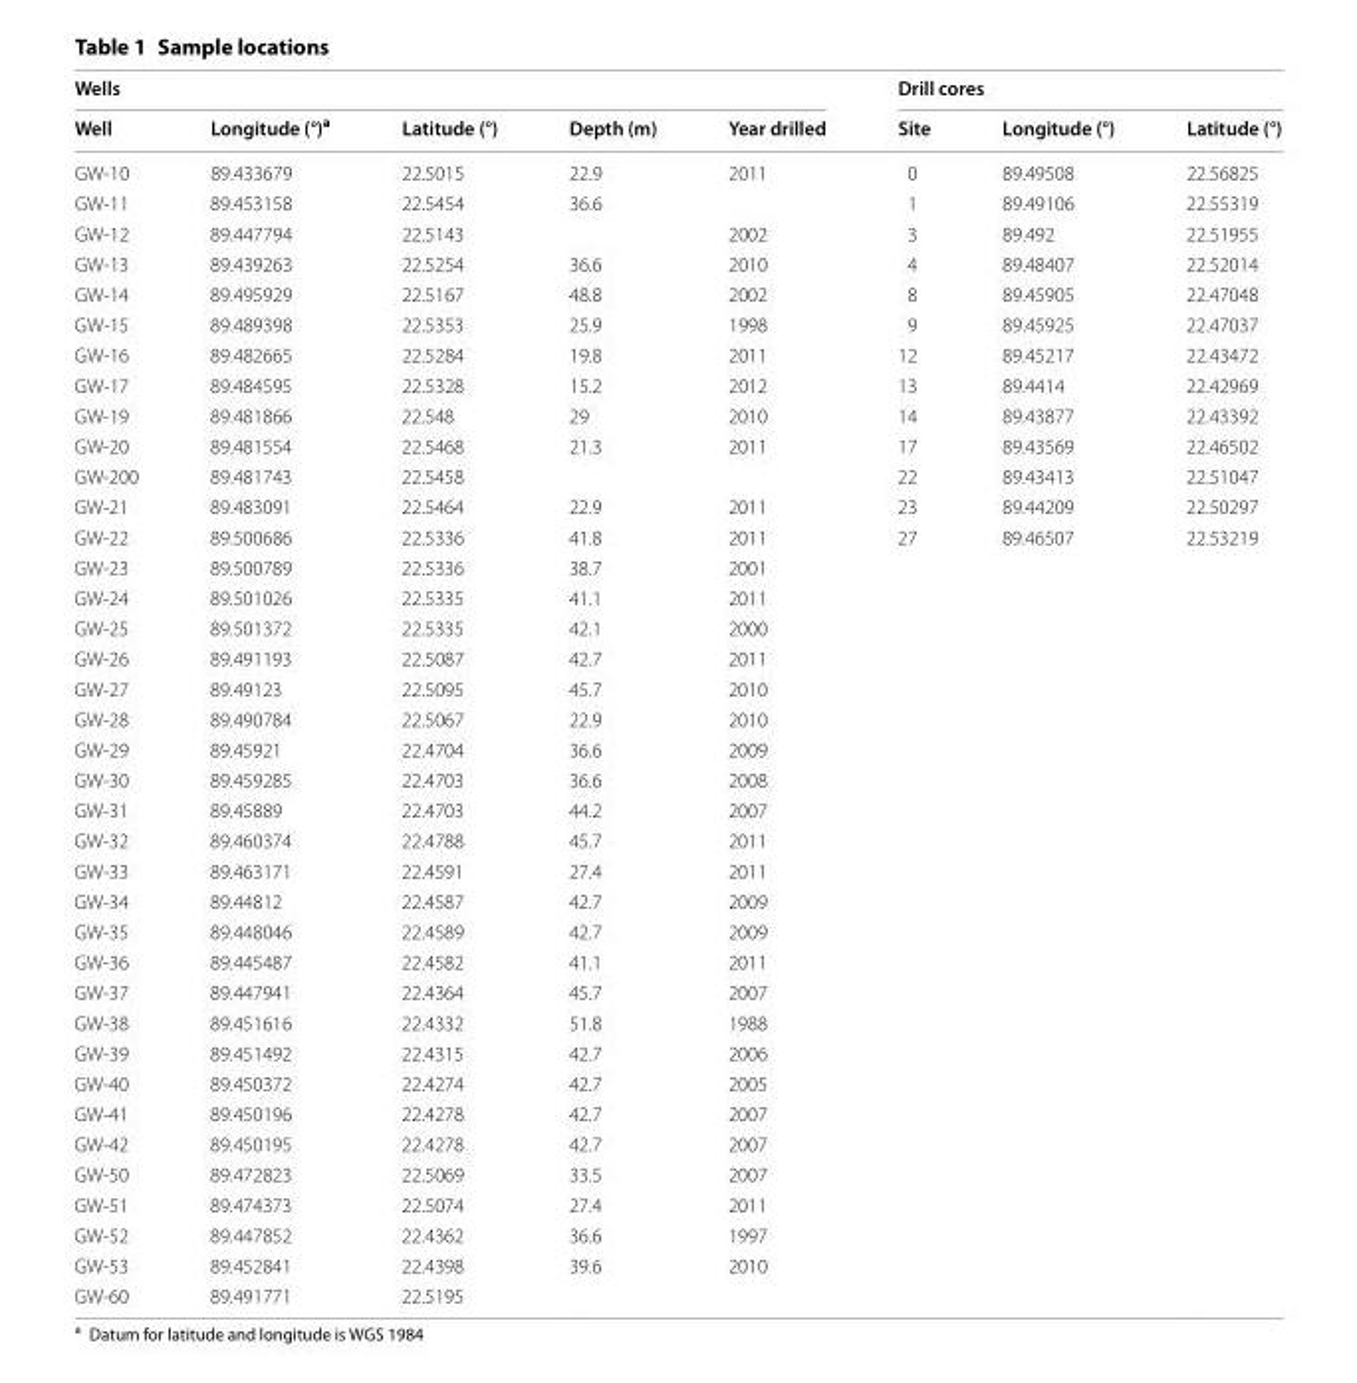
<table><thead><tr><td colspan="5">Wells</td><td colspan="3">Drill cores</td></tr><tr><td>Well</td><td>Longitude (°)<sup>a</sup></td><td>Latitude (°)</td><td>Depth (m)</td><td>Year drilled</td><td>Site</td><td>Longitude (°)</td><td>Latitude (°)</td></tr></thead><tbody><tr><td>GW-10</td><td>89.433679</td><td>22.5015</td><td>22.9</td><td>2011</td><td>0</td><td>89.49508</td><td>22.56825</td></tr><tr><td>GW-11</td><td>89.453158</td><td>22.5454</td><td>36.6</td><td></td><td>1</td><td>89.49106</td><td>22.55319</td></tr><tr><td>GW-12</td><td>89.447794</td><td>22.5143</td><td></td><td>2002</td><td>3</td><td>89.492</td><td>22.51955</td></tr><tr><td>GW-13</td><td>89.439263</td><td>22.5254</td><td>36.6</td><td>2010</td><td>4</td><td>89.48407</td><td>22.52014</td></tr><tr><td>GW-14</td><td>89.495929</td><td>22.5167</td><td>48.8</td><td>2002</td><td>8</td><td>89.45905</td><td>22.47048</td></tr><tr><td>GW-15</td><td>89.489398</td><td>22.5353</td><td>25.9</td><td>1998</td><td>9</td><td>89.45925</td><td>22.47037</td></tr><tr><td>GW-16</td><td>89.482665</td><td>22.5284</td><td>19.8</td><td>2011</td><td>12</td><td>89.45217</td><td>22.43472</td></tr><tr><td>GW-17</td><td>89.484595</td><td>22.5328</td><td>15.2</td><td>2012</td><td>13</td><td>89.4414</td><td>22.42969</td></tr><tr><td>GW-19</td><td>89.481866</td><td>22.548</td><td>29</td><td>2010</td><td>14</td><td>89.43877</td><td>22.43392</td></tr><tr><td>GW-20</td><td>89.481554</td><td>22.5468</td><td>21.3</td><td>2011</td><td>17</td><td>89.43569</td><td>22.46502</td></tr><tr><td>GW-200</td><td>89.481743</td><td>22.5458</td><td></td><td></td><td>22</td><td>89.43413</td><td>22.51047</td></tr><tr><td>GW-21</td><td>89.483091</td><td>22.5464</td><td>22.9</td><td>2011</td><td>23</td><td>89.44209</td><td>22.50297</td></tr><tr><td>GW-22</td><td>89.500686</td><td>22.5336</td><td>41.8</td><td>2011</td><td>27</td><td>89.46507</td><td>22.53219</td></tr><tr><td>GW-23</td><td>89.500789</td><td>22.5336</td><td>38.7</td><td>2001</td><td></td><td></td><td></td></tr><tr><td>GW-24</td><td>89.501026</td><td>22.5335</td><td>41.1</td><td>2011</td><td></td><td></td><td></td></tr><tr><td>GW-25</td><td>89.501372</td><td>22.5335</td><td>42.1</td><td>2000</td><td></td><td></td><td></td></tr><tr><td>GW-26</td><td>89.491193</td><td>22.5087</td><td>42.7</td><td>2011</td><td></td><td></td><td></td></tr><tr><td>GW-27</td><td>89.49123</td><td>22.5095</td><td>45.7</td><td>2010</td><td></td><td></td><td></td></tr><tr><td>GW-28</td><td>89.490784</td><td>22.5067</td><td>22.9</td><td>2010</td><td></td><td></td><td></td></tr><tr><td>GW-29</td><td>89.45921</td><td>22.4704</td><td>36.6</td><td>2009</td><td></td><td></td><td></td></tr><tr><td>GW-30</td><td>89.459285</td><td>22.4703</td><td>36.6</td><td>2008</td><td></td><td></td><td></td></tr><tr><td>GW-31</td><td>89.45889</td><td>22.4703</td><td>44.2</td><td>2007</td><td></td><td></td><td></td></tr><tr><td>GW-32</td><td>89.460374</td><td>22.4788</td><td>45.7</td><td>2011</td><td></td><td></td><td></td></tr><tr><td>GW-33</td><td>89.463171</td><td>22.4591</td><td>27.4</td><td>2011</td><td></td><td></td><td></td></tr><tr><td>GW-34</td><td>89.44812</td><td>22.4587</td><td>42.7</td><td>2009</td><td></td><td></td><td></td></tr><tr><td>GW-35</td><td>89.448046</td><td>22.4589</td><td>42.7</td><td>2009</td><td></td><td></td><td></td></tr><tr><td>GW-36</td><td>89.445487</td><td>22.4582</td><td>41.1</td><td>2011</td><td></td><td></td><td></td></tr><tr><td>GW-37</td><td>89.447941</td><td>22.4364</td><td>45.7</td><td>2007</td><td></td><td></td><td></td></tr><tr><td>GW-38</td><td>89.451616</td><td>22.4332</td><td>51.8</td><td>1988</td><td></td><td></td><td></td></tr><tr><td>GW-39</td><td>89.451492</td><td>22.4315</td><td>42.7</td><td>2006</td><td></td><td></td><td></td></tr><tr><td>GW-40</td><td>89.450372</td><td>22.4274</td><td>42.7</td><td>2005</td><td></td><td></td><td></td></tr><tr><td>GW-41</td><td>89.450196</td><td>22.4278</td><td>42.7</td><td>2007</td><td></td><td></td><td></td></tr><tr><td>GW-42</td><td>89.450195</td><td>22.4278</td><td>42.7</td><td>2007</td><td></td><td></td><td></td></tr><tr><td>GW-50</td><td>89.472823</td><td>22.5069</td><td>33.5</td><td>2007</td><td></td><td></td><td></td></tr><tr><td>GW-51</td><td>89.474373</td><td>22.5074</td><td>27.4</td><td>2011</td><td></td><td></td><td></td></tr><tr><td>GW-52</td><td>89.447852</td><td>22.4362</td><td>36.6</td><td>1997</td><td></td><td></td><td></td></tr><tr><td>GW-53</td><td>89.452841</td><td>22.4398</td><td>39.6</td><td>2010</td><td></td><td></td><td></td></tr><tr><td>GW-60</td><td>89.491771</td><td>22.5195</td><td></td><td></td><td></td><td></td><td></td></tr></tbody></table>